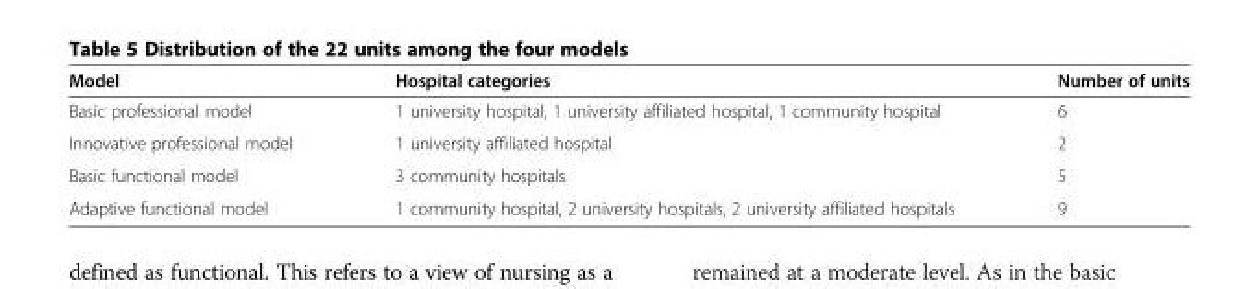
<table><thead><tr><td>Model</td><td>Hospital categories</td><td>Number of units</td></tr></thead><tbody><tr><td>Basic professional model</td><td>1 university hospital, 1 university affiliated hospital, 1 community hospital</td><td>6</td></tr><tr><td>Innovative professional model</td><td>1 university affiliated hospital</td><td>2</td></tr><tr><td>Basic functional model</td><td>3 community hospitals</td><td>5</td></tr><tr><td>Adaptive functional model</td><td>1 community hospital, 2 university hospitals, 2 university affiliated hospitals</td><td>9</td></tr></tbody></table>